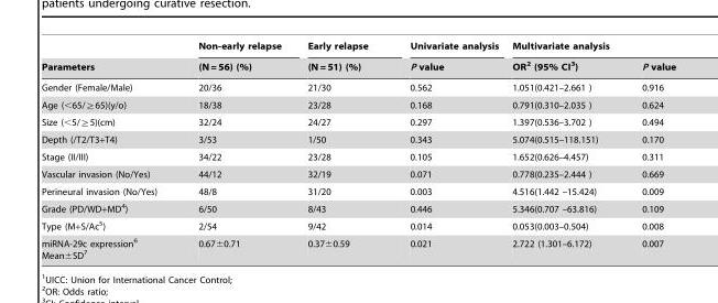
<table><thead><tr><td rowspan="2">Parameters</td><td rowspan="2">Non-early relapse (N = 56) (%)</td><td rowspan="2">Early relapse (N = 51) (%)</td><td rowspan="2">Univariate analysis P value</td><td colspan="2">Multivariate analysis</td></tr><tr><td>OR<sup>2</sup> (95% CI<sup>3</sup>)</td><td>P value</td></tr></thead><tbody><tr><td>Gender (Female/Male)</td><td>20/36</td><td>21/30</td><td>0.562</td><td>1.051(0.421–2.661 )</td><td>0.916</td></tr><tr><td>Age (&lt;65/≧65)(y/o)</td><td>18/38</td><td>23/28</td><td>0.168</td><td>0.791(0.310–2.035 )</td><td>0.624</td></tr><tr><td>Size (&lt;5/≧5)(cm)</td><td>32/24</td><td>24/27</td><td>0.297</td><td>1.397(0.536–3.702 )</td><td>0.494</td></tr><tr><td>Depth (/T2/T3+T4)</td><td>3/53</td><td>1/50</td><td>0.343</td><td>5.074(0.515–118.151)</td><td>0.170</td></tr><tr><td>Stage (II/III)</td><td>34/22</td><td>23/28</td><td>0.105</td><td>1.652(0.626–4.457)</td><td>0.311</td></tr><tr><td>Vascular invasion (No/Yes)</td><td>44/12</td><td>32/19</td><td>0.071</td><td>0.778(0.235–2.444 )</td><td>0.669</td></tr><tr><td>Perineural invasion (No/Yes)</td><td>48/8</td><td>31/20</td><td>0.003</td><td>4.516(1.442 –15.424)</td><td>0.009</td></tr><tr><td>Grade (PD/WD+MD<sup>4</sup>)</td><td>6/50</td><td>8/43</td><td>0.446</td><td>5.346(0.707 –63.816)</td><td>0.109</td></tr><tr><td>Type (M+S/Ac<sup>5</sup>)</td><td>2/54</td><td>9/42</td><td>0.014</td><td>0.053(0.003–0.504)</td><td>0.008</td></tr><tr><td>miRNA-29c expression<sup>6</sup> Mean±SD<sup>7</sup></td><td>0.67±0.71</td><td>0.37±0.59</td><td>0.021</td><td>2.722 (1.301–6.172)</td><td>0.007</td></tr></tbody></table>